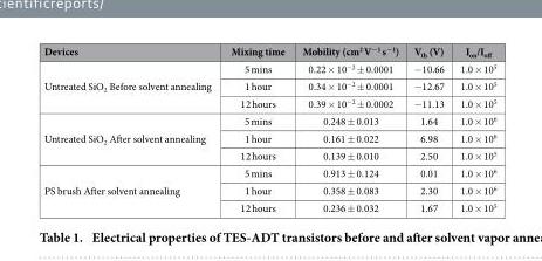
<table><thead><tr><td>Devices</td><td>Mixing time</td><td>Mobility (cm<sup>2</sup> V<sup>−1</sup> s<sup>−1</sup>)</td><td>V<sub>th</sub> (V)</td><td>I<sub>on</sub>/I<sub>off</sub></td></tr></thead><tbody><tr><td rowspan="3">Untreated SiO<sub>2</sub> Before solvent annealing</td><td>5 mins</td><td>0.22 × 10<sup>−2</sup> ± 0.0001</td><td>− 10.66</td><td>1.0 × 10<sup>5</sup></td></tr><tr><td>1 hour</td><td>0.34 × 10<sup>−2</sup> ± 0.0001</td><td>− 12.67</td><td>1.0 × 10<sup>5</sup></td></tr><tr><td>12 hours</td><td>0.39 × 10<sup>−2</sup> ± 0.0002</td><td>− 11.13</td><td>1.0 × 10<sup>5</sup></td></tr><tr><td rowspan="3">Untreated SiO<sub>2</sub> After solvent annealing</td><td>5 mins</td><td>0.248 ± 0.013</td><td>1.64</td><td>1.0 × 10<sup>6</sup></td></tr><tr><td>1 hour</td><td>0.161 ± 0.022</td><td>6.98</td><td>1.0 × 10<sup>6</sup></td></tr><tr><td>12 hours</td><td>0.139 ± 0.010</td><td>2.50</td><td>1.0 × 10<sup>5</sup></td></tr><tr><td rowspan="3">PS brush After solvent annealing</td><td>5 mins</td><td>0.913 ± 0.124</td><td>0.01</td><td>1.0 × 10<sup>6</sup></td></tr><tr><td>1 hour</td><td>0.358 ± 0.083</td><td>2.30</td><td>1.0 × 10<sup>6</sup></td></tr><tr><td>12 hours</td><td>0.236 ± 0.032</td><td>1.67</td><td>1.0 × 10<sup>5</sup></td></tr></tbody></table>